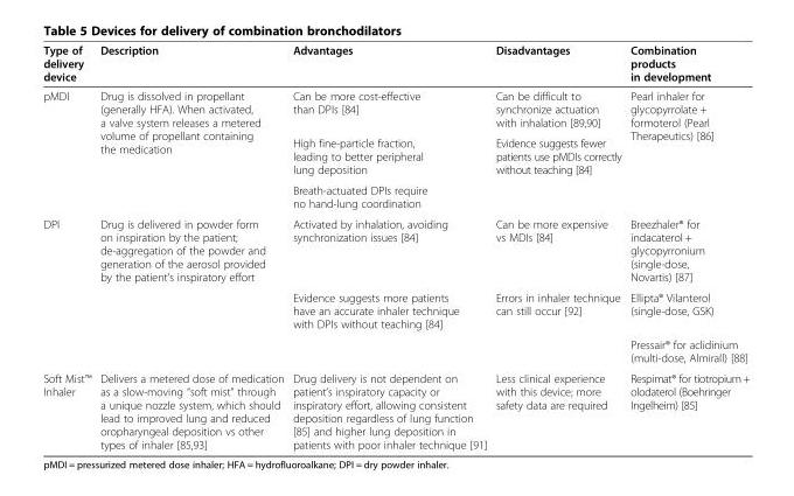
<table><thead><tr><td>Type of delivery device</td><td>Description</td><td>Advantages</td><td>Disadvantages</td><td>Combination products in development</td></tr></thead><tbody><tr><td rowspan="3">pMDI</td><td rowspan="3">Drug is dissolved in propellant (generally HFA). When activated, a valve system releases a metered volume of propellant containing the medication</td><td>Can be more cost-effective than DPIs [84]</td><td>Can be difficult to synchronize actuation with inhalation [89,90]</td><td rowspan="3">Pearl inhaler for glycopyrrolate + formoterol (Pearl Therapeutics) [86]</td></tr><tr><td>High fine-particle fraction, leading to better peripheral lung deposition</td><td>Evidence suggests fewer patients use pMDIs correctly without teaching [84]</td></tr><tr><td>Breath-actuated DPIs require no hand-lung coordination</td><td></td></tr><tr><td rowspan="3">DPI</td><td rowspan="3">Drug is delivered in powder form on inspiration by the patient; de-aggregation of the powder and generation of the aerosol provided by the patient’s inspiratory effort</td><td>Activated by inhalation, avoiding synchronization issues [84]</td><td>Can be more expensive vs MDIs [84]</td><td>Breezhaler® for indacaterol + glycopyrronium (single-dose, Novartis) [87]</td></tr><tr><td>Evidence suggests more patients have an accurate inhaler technique with DPIs without teaching [84]</td><td>Errors in inhaler technique can still occur [92]</td><td>Ellipta® Vilanterol (single-dose, GSK)</td></tr><tr><td></td><td></td><td>Pressair® for aclidinium (multi-dose, Almirall) [88]</td></tr><tr><td>Soft Mist™ Inhaler</td><td>Delivers a metered dose of medication as a slow-moving “soft mist” through a unique nozzle system, which should lead to improved lung and reduced oropharyngeal deposition vs other types of inhaler [85,93]</td><td>Drug delivery is not dependent on patient’s inspiratory capacity or inspiratory effort, allowing consistent deposition regardless of lung function [85] and higher lung deposition in patients with poor inhaler technique [91]</td><td>Less clinical experience with this device; more safety data are required</td><td>Respimat® for tiotropium + olodaterol (Boehringer Ingelheim) [85]</td></tr></tbody></table>